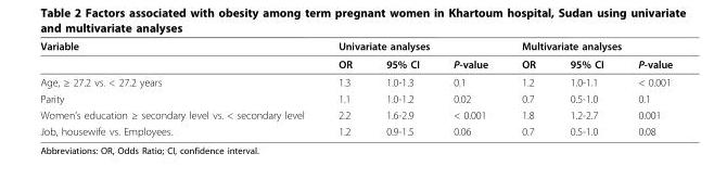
<table><thead><tr><td rowspan="2">Variable</td><td colspan="3">Univariate analyses</td><td colspan="3">Multivariate analyses</td></tr><tr><td>OR</td><td>95% CI</td><td>P-value</td><td>OR</td><td>95% CI</td><td>P-value</td></tr></thead><tbody><tr><td>Age, ≥ 27.2 vs. &lt; 27.2 years</td><td>1.3</td><td>1.0-1.3</td><td>0.1</td><td>1.2</td><td>1.0-1.1</td><td>&lt; 0.001</td></tr><tr><td>Parity</td><td>1.1</td><td>1.0-1.2</td><td>0.02</td><td>0.7</td><td>0.5-1.0</td><td>0.1</td></tr><tr><td>Women’s education ≥ secondary level vs. &lt; secondary level</td><td>2.2</td><td>1.6-2.9</td><td>&lt; 0.001</td><td>1.8</td><td>1.2-2.7</td><td>0.001</td></tr><tr><td>Job, housewife vs. Employees.</td><td>1.2</td><td>0.9-1.5</td><td>0.06</td><td>0.7</td><td>0.5-1.0</td><td>0.08</td></tr></tbody></table>